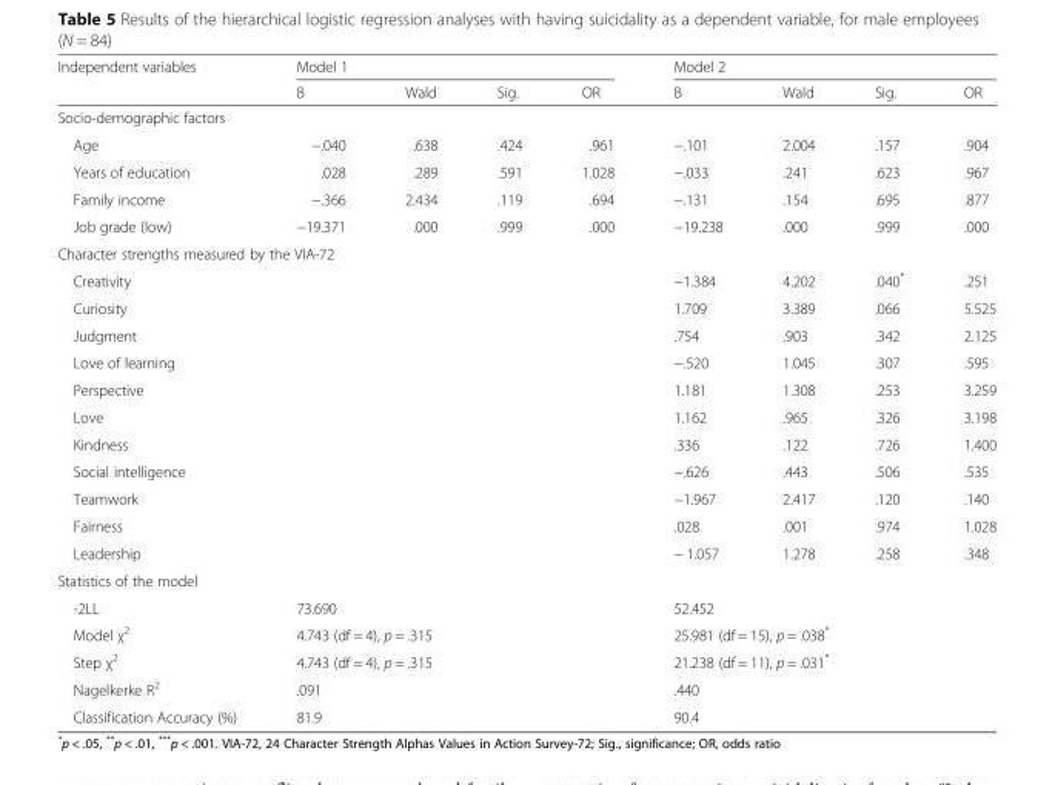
<table><thead><tr><td rowspan="2">Independent variables</td><td colspan="4">Model 1</td><td colspan="4">Model 2</td></tr><tr><td>B</td><td>Wald</td><td>Sig.</td><td>OR</td><td>B</td><td>Wald</td><td>Sig.</td><td>OR</td></tr></thead><tbody><tr><td colspan="9">Socio-demographic factors</td></tr><tr><td>Age</td><td>−.040</td><td>.638</td><td>.424</td><td>.961</td><td>−.101</td><td>2.004</td><td>.157</td><td>.904</td></tr><tr><td>Years of education</td><td>.028</td><td>.289</td><td>.591</td><td>1.028</td><td>−.033</td><td>.241</td><td>.623</td><td>.967</td></tr><tr><td>Family income</td><td>−.366</td><td>2.434</td><td>.119</td><td>.694</td><td>−.131</td><td>.154</td><td>.695</td><td>.877</td></tr><tr><td>Job grade (low)</td><td>−19.371</td><td>.000</td><td>.999</td><td>.000</td><td>−19.238</td><td>.000</td><td>.999</td><td>.000</td></tr><tr><td colspan="9">Character strengths measured by the VIA-72</td></tr><tr><td>Creativity</td><td></td><td></td><td></td><td></td><td>−1.384</td><td>4.202</td><td>.040*</td><td>.251</td></tr><tr><td>Curiosity</td><td></td><td></td><td></td><td></td><td>1.709</td><td>3.389</td><td>.066</td><td>5.525</td></tr><tr><td>Judgment</td><td></td><td></td><td></td><td></td><td>.754</td><td>.903</td><td>.342</td><td>2.125</td></tr><tr><td>Love of learning</td><td></td><td></td><td></td><td></td><td>−.520</td><td>1.045</td><td>.307</td><td>.595</td></tr><tr><td>Perspective</td><td></td><td></td><td></td><td></td><td>1.181</td><td>1.308</td><td>.253</td><td>3.259</td></tr><tr><td>Love</td><td></td><td></td><td></td><td></td><td>1.162</td><td>.965</td><td>.326</td><td>3.198</td></tr><tr><td>Kindness</td><td></td><td></td><td></td><td></td><td>.336</td><td>.122</td><td>.726</td><td>1.400</td></tr><tr><td>Social intelligence</td><td></td><td></td><td></td><td></td><td>−.626</td><td>.443</td><td>.506</td><td>.535</td></tr><tr><td>Teamwork</td><td></td><td></td><td></td><td></td><td>−1.967</td><td>2.417</td><td>.120</td><td>.140</td></tr><tr><td>Fairness</td><td></td><td></td><td></td><td></td><td>.028</td><td>.001</td><td>.974</td><td>1.028</td></tr><tr><td>Leadership</td><td></td><td></td><td></td><td></td><td>− 1.057</td><td>1.278</td><td>.258</td><td>.348</td></tr><tr><td colspan="9">Statistics of the model</td></tr><tr><td>-2LL</td><td colspan="4">73.690</td><td colspan="4">52.452</td></tr><tr><td>Model χ<sup>2</sup></td><td colspan="4">4.743 (df = 4), p = .315</td><td colspan="4">25.981 (df = 15), p = .038*</td></tr><tr><td>Step χ<sup>2</sup></td><td colspan="4">4.743 (df = 4), p = .315</td><td colspan="4">21.238 (df = 11), p = .031*</td></tr><tr><td>Nagelkerke R<sup>2</sup></td><td colspan="4">.091</td><td colspan="4">.440</td></tr><tr><td>Classification Accuracy (%)</td><td colspan="4">81.9</td><td colspan="4">90.4</td></tr></tbody></table>